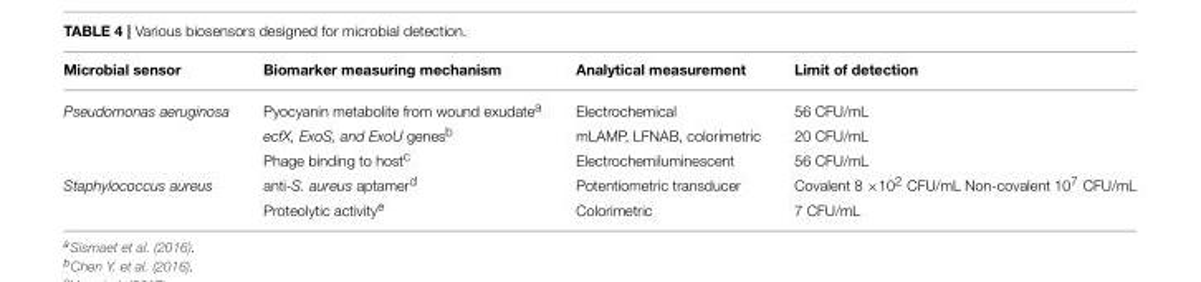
<table><thead><tr><td>Microbial sensor</td><td>Biomarker measuring mechanism</td><td>Analytical measurement</td><td>Limit of detection</td></tr></thead><tbody><tr><td rowspan="3">Pseudomonas aeruginosa</td><td>Pyocyanin metabolite from wound exudate<sup>a</sup></td><td>Electrochemical</td><td>56 CFU/mL</td></tr><tr><td>ecfX, ExoS, and ExoU genes<sup>b</sup></td><td>mLAMP, LFNAB, colorimetric</td><td>20 CFU/mL</td></tr><tr><td>Phage binding to host<sup>c</sup></td><td>Electrochemiluminescent</td><td>56 CFU/mL</td></tr><tr><td rowspan="2">Staphylococcus aureus</td><td>anti-S. aureus aptamer<sup>d</sup></td><td>Potentiometric transducer</td><td>Covalent 8 ×10<sup>2</sup> CFU/mL Non-covalent 10<sup>7</sup> CFU/mL</td></tr><tr><td>Proteolytic activity<sup>e</sup></td><td>Colorimetric</td><td>7 CFU/mL</td></tr></tbody></table>